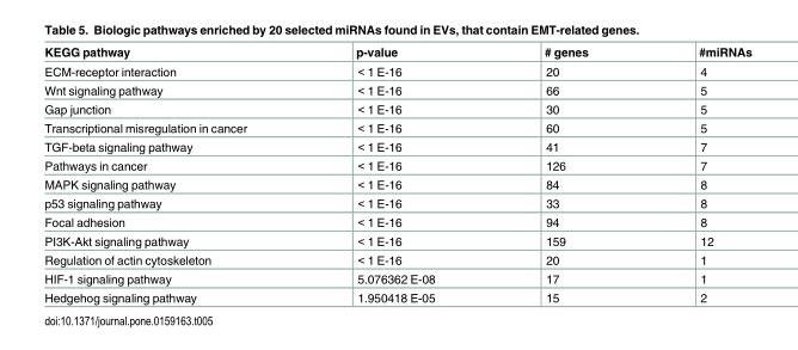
<table><thead><tr><td>KEGG pathway</td><td>p-value</td><td># genes</td><td>#miRNAs</td></tr></thead><tbody><tr><td>ECM-receptor interaction</td><td>&lt; 1 E-16</td><td>20</td><td>4</td></tr><tr><td>Wnt signaling pathway</td><td>&lt; 1 E-16</td><td>66</td><td>5</td></tr><tr><td>Gap junction</td><td>&lt; 1 E-16</td><td>30</td><td>5</td></tr><tr><td>Transcriptional misregulation in cancer</td><td>&lt; 1 E-16</td><td>60</td><td>5</td></tr><tr><td>TGF-beta signaling pathway</td><td>&lt; 1 E-16</td><td>41</td><td>7</td></tr><tr><td>Pathways in cancer</td><td>&lt; 1 E-16</td><td>126</td><td>7</td></tr><tr><td>MAPK signaling pathway</td><td>&lt; 1 E-16</td><td>84</td><td>8</td></tr><tr><td>p53 signaling pathway</td><td>&lt; 1 E-16</td><td>33</td><td>8</td></tr><tr><td>Focal adhesion</td><td>&lt; 1 E-16</td><td>94</td><td>8</td></tr><tr><td>PI3K-Akt signaling pathway</td><td>&lt; 1 E-16</td><td>159</td><td>12</td></tr><tr><td>Regulation of actin cytoskeleton</td><td>&lt; 1 E-16</td><td>20</td><td>1</td></tr><tr><td>HIF-1 signaling pathway</td><td>5.076362 E-08</td><td>17</td><td>1</td></tr><tr><td>Hedgehog signaling pathway</td><td>1.950418 E-05</td><td>15</td><td>2</td></tr></tbody></table>